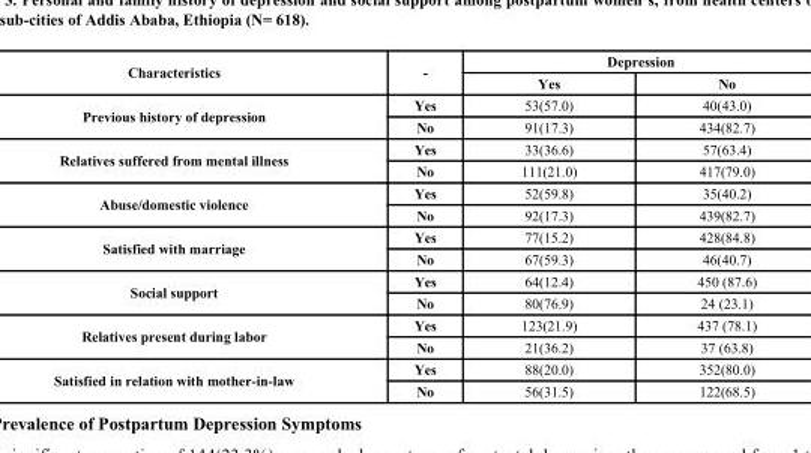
<table><thead><tr><td rowspan="2">Characteristics</td><td rowspan="2">-</td><td colspan="2">Depression</td></tr><tr><td>Yes</td><td>No</td></tr></thead><tbody><tr><td rowspan="2">Previous history of depression</td><td>Yes</td><td>53(57.0)</td><td>40(43.0)</td></tr><tr><td>No</td><td>91(17.3)</td><td>434(82.7)</td></tr><tr><td rowspan="2">Relatives suffered from mental illness</td><td>Yes</td><td>33(36.6)</td><td>57(63.4)</td></tr><tr><td>No</td><td>111(21.0)</td><td>417(79.0)</td></tr><tr><td rowspan="2">Abuse/domestic violence</td><td>Yes</td><td>52(59.8)</td><td>35(40.2)</td></tr><tr><td>No</td><td>92(17.3)</td><td>439(82.7)</td></tr><tr><td rowspan="2">Satisfied with marriage</td><td>Yes</td><td>77(15.2)</td><td>428(84.8)</td></tr><tr><td>No</td><td>67(59.3)</td><td>46(40.7)</td></tr><tr><td rowspan="2">Social support</td><td>Yes</td><td>64(12.4)</td><td>450 (87.6)</td></tr><tr><td>No</td><td>80(76.9)</td><td>24 (23.1)</td></tr><tr><td rowspan="2">Relatives present during labor</td><td>Yes</td><td>123(21.9)</td><td>437 (78.1)</td></tr><tr><td>No</td><td>21(36.2)</td><td>37 (63.8)</td></tr><tr><td rowspan="2">Satisfied in relation with mother-in-law</td><td>Yes</td><td>88(20.0)</td><td>352(80.0)</td></tr><tr><td>No</td><td>56(31.5)</td><td>122(68.5)</td></tr></tbody></table>